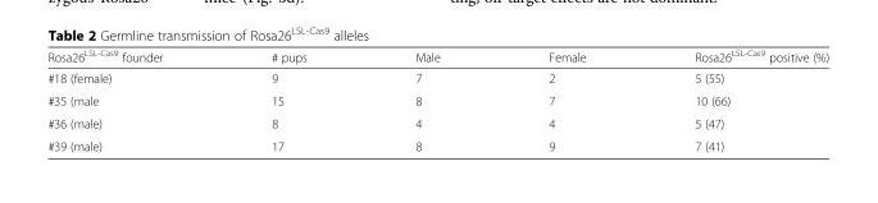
<table><thead><tr><td>Rosa26<sup>LSL-Cas9</sup> founder</td><td># pups</td><td>Male</td><td>Female</td><td>Rosa26<sup>LSL-Cas9</sup> positive (%)</td></tr></thead><tbody><tr><td>#18 (female)</td><td>9</td><td>7</td><td>2</td><td>5 (55)</td></tr><tr><td>#35 (male</td><td>15</td><td>8</td><td>7</td><td>10 (66)</td></tr><tr><td>#36 (male)</td><td>8</td><td>4</td><td>4</td><td>5 (47)</td></tr><tr><td>#39 (male)</td><td>17</td><td>8</td><td>9</td><td>7 (41)</td></tr></tbody></table>